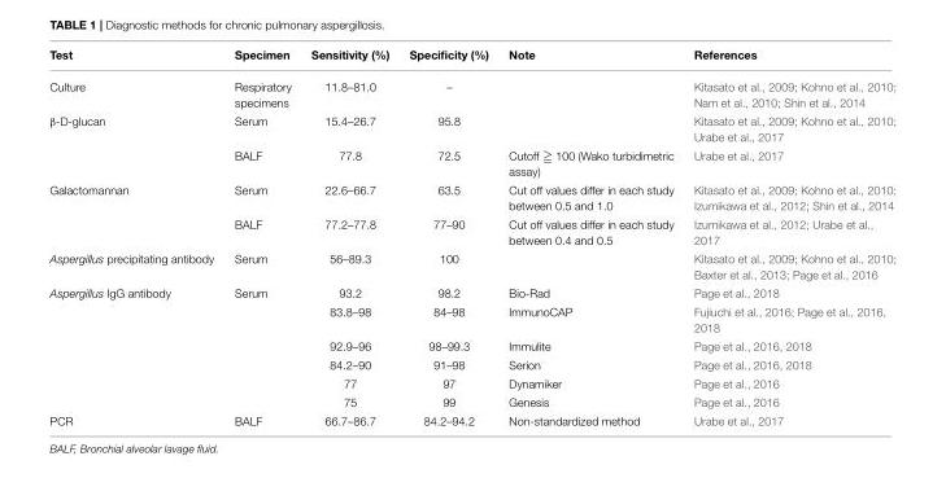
<table><thead><tr><td>Test</td><td>Specimen</td><td>Sensitivity (%)</td><td>Specificity (%)</td><td>Note</td><td>References</td></tr></thead><tbody><tr><td>Culture</td><td>Respiratory specimens</td><td>11.8–81.0</td><td>–</td><td></td><td>Kitasato et al., 2009; Kohno et al., 2010; Nam et al., 2010; Shin et al., 2014</td></tr><tr><td rowspan="2">β-D-glucan</td><td>Serum</td><td>15.4–26.7</td><td>95.8</td><td></td><td>Kitasato et al., 2009; Kohno et al., 2010; Urabe et al., 2017</td></tr><tr><td>BALF</td><td>77.8</td><td>72.5</td><td>Cutoff ≧ 100 (Wako turbidimetric assay)</td><td>Urabe et al., 2017</td></tr><tr><td rowspan="2">Galactomannan</td><td>Serum</td><td>22.6–66.7</td><td>63.5</td><td>Cut off values differ in each study between 0.5 and 1.0</td><td>Kitasato et al., 2009; Kohno et al., 2010; Izumikawa et al., 2012; Shin et al., 2014</td></tr><tr><td>BALF</td><td>77.2–77.8</td><td>77–90</td><td>Cut off values differ in each study between 0.4 and 0.5</td><td>Izumikawa et al., 2012; Urabe et al., 2017</td></tr><tr><td>Aspergillus precipitating antibody</td><td>Serum</td><td>56–89.3</td><td>100</td><td></td><td>Kitasato et al., 2009; Kohno et al., 2010; Baxter et al., 2013; Page et al., 2016</td></tr><tr><td rowspan="6">Aspergillus IgG antibody</td><td>Serum</td><td>93.2</td><td>98.2</td><td>Bio-Rad</td><td>Page et al., 2018</td></tr><tr><td></td><td>83.8–98</td><td>84–98</td><td>ImmunoCAP</td><td>Fujiuchi et al., 2016; Page et al., 2016, 2018</td></tr><tr><td></td><td>92.9–96</td><td>98–99.3</td><td>Immulite</td><td>Page et al., 2016, 2018</td></tr><tr><td></td><td>84.2–90</td><td>91–98</td><td>Serion</td><td>Page et al., 2016, 2018</td></tr><tr><td></td><td>77</td><td>97</td><td>Dynamiker</td><td>Page et al., 2016</td></tr><tr><td></td><td>75</td><td>99</td><td>Genesis</td><td>Page et al., 2016</td></tr><tr><td>PCR</td><td>BALF</td><td>66.7–86.7</td><td>84.2–94.2</td><td>Non-standardized method</td><td>Urabe et al., 2017</td></tr></tbody></table>